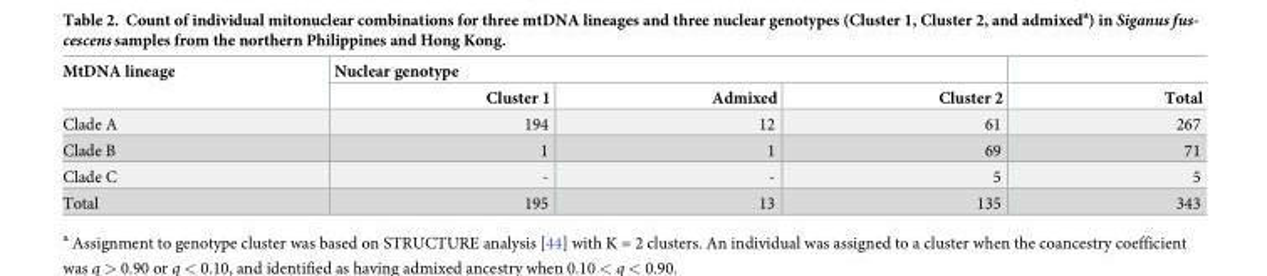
<table><thead><tr><td rowspan="2">MtDNA lineage</td><td colspan="3">Nuclear genotype</td><td rowspan="2">Total</td></tr><tr><td>Cluster 1</td><td>Admixed</td><td>Cluster 2</td></tr></thead><tbody><tr><td>Clade A</td><td>194</td><td>12</td><td>61</td><td>267</td></tr><tr><td>Clade B</td><td>1</td><td>1</td><td>69</td><td>71</td></tr><tr><td>Clade C</td><td>-</td><td>-</td><td>5</td><td>5</td></tr><tr><td>Total</td><td>195</td><td>13</td><td>135</td><td>343</td></tr></tbody></table>